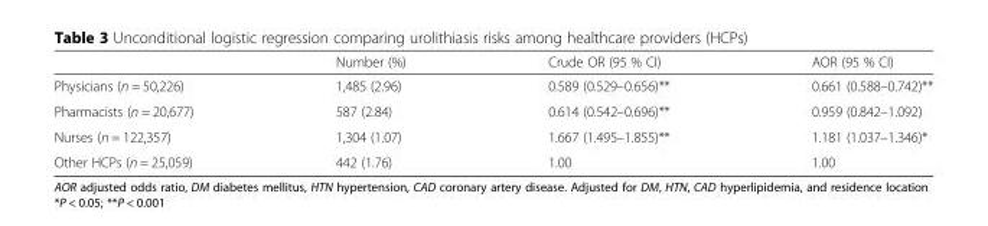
<table><thead><tr><td></td><td>Number (%)</td><td>Crude OR (95 % CI)</td><td>AOR (95 % CI)</td></tr></thead><tbody><tr><td>Physicians (n = 50,226)</td><td>1,485 (2.96)</td><td>0.589 (0.529–0.656)**</td><td>0.661 (0.588–0.742)**</td></tr><tr><td>Pharmacists (n = 20,677)</td><td>587 (2.84)</td><td>0.614 (0.542–0.696)**</td><td>0.959 (0.842–1.092)</td></tr><tr><td>Nurses (n = 122,357)</td><td>1,304 (1.07)</td><td>1.667 (1.495–1.855)**</td><td>1.181 (1.037–1.346)*</td></tr><tr><td>Other HCPs (n = 25,059)</td><td>442 (1.76)</td><td>1.00</td><td>1.00</td></tr></tbody></table>